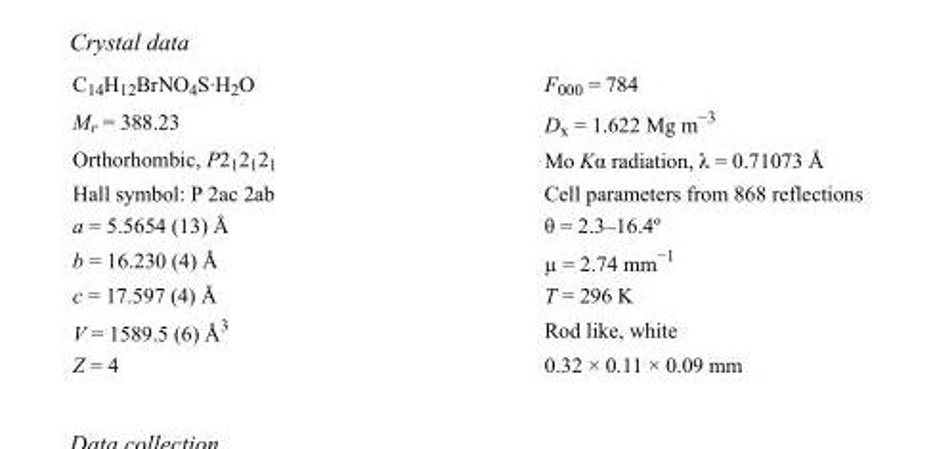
<table><tbody><tr><td>C<sub>14</sub>H<sub>12</sub>BrNO<sub>4</sub>S·H<sub>2</sub>O</td><td>F000 = 784</td></tr><tr><td>M<sub>r</sub> = 388.23</td><td>D<sub>x</sub> = 1.622 Mg m<sup>−3</sup></td></tr><tr><td>Orthorhombic, P2<sub>1</sub>2<sub>1</sub>2<sub>1</sub></td><td>Mo Kα radiation, λ = 0.71073 Å</td></tr><tr><td>Hall symbol: P 2ac 2ab</td><td>Cell parameters from 868 reflections</td></tr><tr><td>a = 5.5654 (13) Å</td><td>θ = 2.3–16.4º</td></tr><tr><td>b = 16.230 (4) Å</td><td>µ = 2.74 mm<sup>−1</sup></td></tr><tr><td>c = 17.597 (4) Å</td><td>T = 296 K</td></tr><tr><td>V = 1589.5 (6) Å<sup>3</sup></td><td>Rod like, white</td></tr><tr><td>Z = 4</td><td>0.32 × 0.11 × 0.09 mm</td></tr></tbody></table>